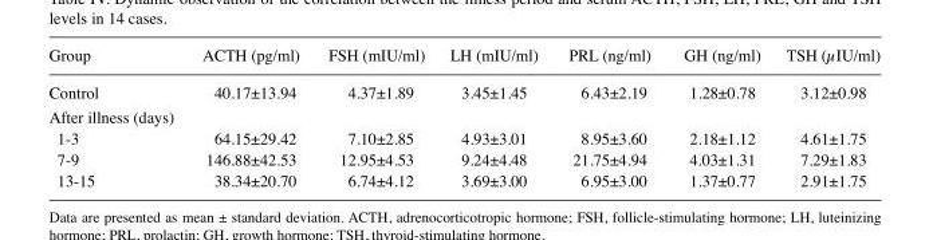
<table><thead><tr><td>Group</td><td>ACTH (pg/ml)</td><td>FSH (mIU/ml)</td><td>LH (mIU/ml)</td><td>PRL (ng/ml)</td><td>GH (ng/ml)</td><td>TSH (µIU/ml)</td></tr></thead><tbody><tr><td>Control</td><td>40.17±13.94</td><td>4.37±1.89</td><td>3.45±1.45</td><td>6.43±2.19</td><td>1.28±0.78</td><td>3.12±0.98</td></tr><tr><td colspan="7">After illness (days)</td></tr><tr><td>1-3</td><td>64.15±29.42</td><td>7.10±2.85</td><td>4.93±3.01</td><td>8.95±3.60</td><td>2.18±1.12</td><td>4.61±1.75</td></tr><tr><td>7-9</td><td>146.88±42.53</td><td>12.95±4.53</td><td>9.24±4.48</td><td>21.75±4.94</td><td>4.03±1.31</td><td>7.29±1.83</td></tr><tr><td>13-15</td><td>38.34±20.70</td><td>6.74±4.12</td><td>3.69±3.00</td><td>6.95±3.00</td><td>1.37±0.77</td><td>2.91±1.75</td></tr></tbody></table>